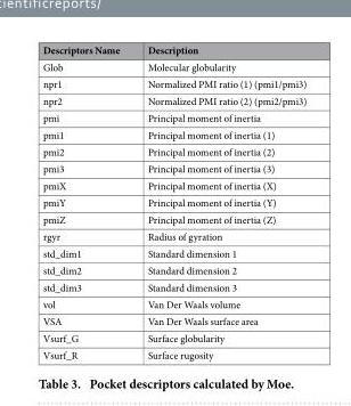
<table><thead><tr><td>Descriptors Name</td><td>Description</td></tr></thead><tbody><tr><td>Glob</td><td>Molecular globularity</td></tr><tr><td>npr1</td><td>Normalized PMI ratio (1) (pmi1/pmi3)</td></tr><tr><td>npr2</td><td>Normalized PMI ratio (2) (pmi2/pmi3)</td></tr><tr><td>pmi</td><td>Principal moment of inertia</td></tr><tr><td>pmi1</td><td>Principal moment of inertia (1)</td></tr><tr><td>pmi2</td><td>Principal moment of inertia (2)</td></tr><tr><td>pmi3</td><td>Principal moment of inertia (3)</td></tr><tr><td>pmiX</td><td>Principal moment of inertia (X)</td></tr><tr><td>pmiY</td><td>Principal moment of inertia (Y)</td></tr><tr><td>pmiZ</td><td>Principal moment of inertia (Z)</td></tr><tr><td>rgyr</td><td>Radius of gyration</td></tr><tr><td>std_dim1</td><td>Standard dimension 1</td></tr><tr><td>std_dim2</td><td>Standard dimension 2</td></tr><tr><td>std_dim3</td><td>Standard dimension 3</td></tr><tr><td>vol</td><td>Van Der Waals volume</td></tr><tr><td>VSA</td><td>Van Der Waals surface area</td></tr><tr><td>Vsurf_G</td><td>Surface globularity</td></tr><tr><td>Vsurf_R</td><td>Surface rugosity</td></tr></tbody></table>